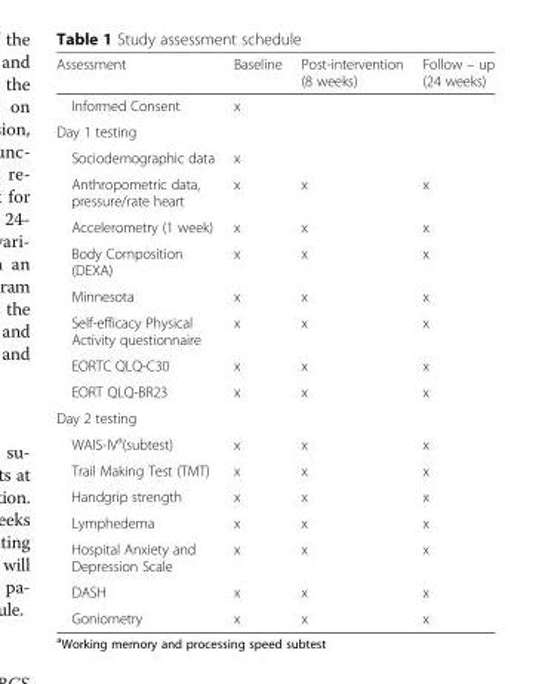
<table><thead><tr><td>Assessment</td><td>Baseline</td><td>Post-intervention (8 weeks)</td><td>Follow – up (24 weeks)</td></tr></thead><tbody><tr><td>Informed Consent</td><td>x</td><td></td><td></td></tr><tr><td colspan="4">Day 1 testing</td></tr><tr><td>Sociodemographic data</td><td>x</td><td></td><td></td></tr><tr><td>Anthropometric data, pressure/rate heart</td><td>x</td><td>x</td><td>x</td></tr><tr><td>Accelerometry (1 week)</td><td>x</td><td>x</td><td>x</td></tr><tr><td>Body Composition (DEXA)</td><td>x</td><td>x</td><td>x</td></tr><tr><td>Minnesota</td><td>x</td><td>x</td><td>x</td></tr><tr><td>Self-efficacy Physical Activity questionnaire</td><td>x</td><td>x</td><td>x</td></tr><tr><td>EORTC QLQ-C30</td><td>x</td><td>x</td><td>x</td></tr><tr><td>EORT QLQ-BR23</td><td>x</td><td>x</td><td>x</td></tr><tr><td colspan="4">Day 2 testing</td></tr><tr><td>WAIS-IV<sup>a</sup>(subtest)</td><td>x</td><td>x</td><td>x</td></tr><tr><td>Trail Making Test (TMT)</td><td>x</td><td>x</td><td>x</td></tr><tr><td>Handgrip strength</td><td>x</td><td>x</td><td>x</td></tr><tr><td>Lymphedema</td><td>x</td><td>x</td><td>x</td></tr><tr><td>Hospital Anxiety and Depression Scale</td><td>x</td><td>x</td><td>x</td></tr><tr><td>DASH</td><td>x</td><td>x</td><td>x</td></tr><tr><td>Goniometry</td><td>x</td><td>x</td><td>x</td></tr></tbody></table>